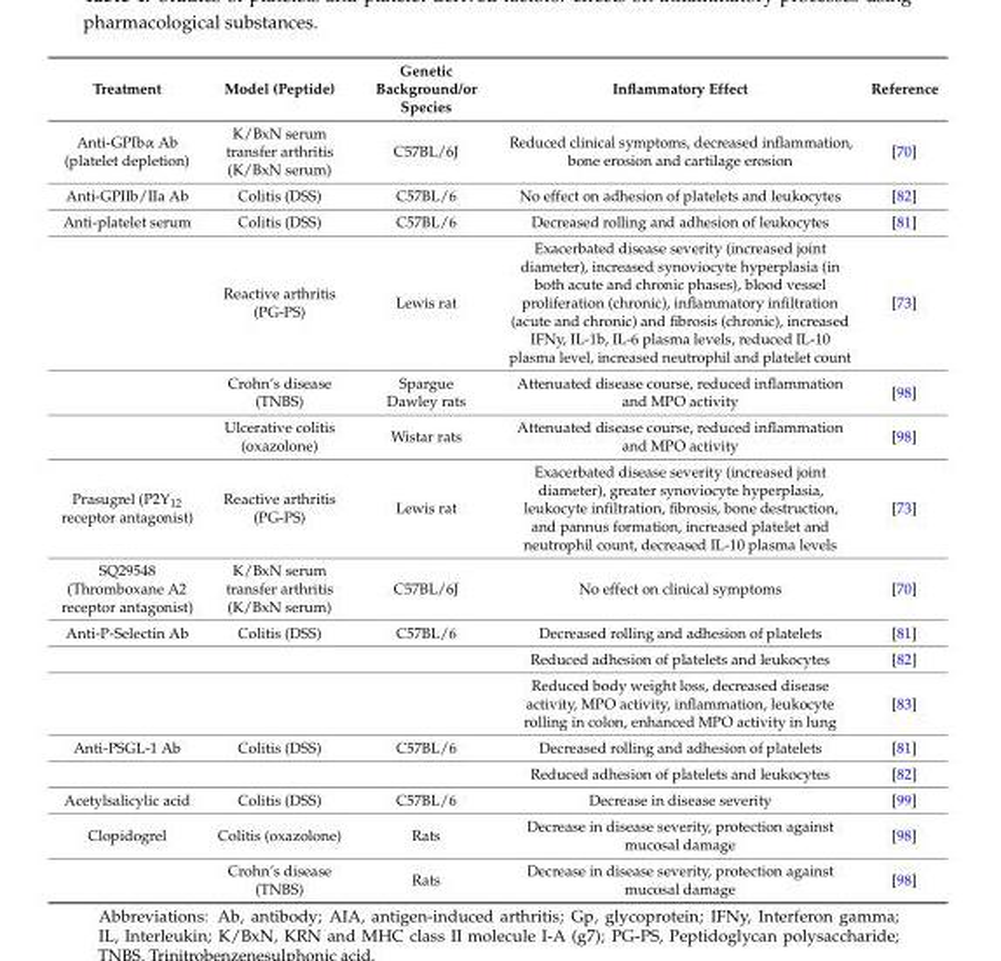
<table><thead><tr><td>Treatment</td><td>Model (Peptide)</td><td>Genetic Background/or Species</td><td>Inflammatory Effect</td><td>Reference</td></tr></thead><tbody><tr><td>Anti-GPIbα Ab (platelet depletion)</td><td>K/BxN serum transfer arthritis (K/BxN serum)</td><td>C57BL/6J</td><td>Reduced clinical symptoms, decreased inflammation, bone erosion and cartilage erosion</td><td>[70]</td></tr><tr><td>Anti-GPIIb/IIa Ab</td><td>Colitis (DSS)</td><td>C57BL/6</td><td>No effect on adhesion of platelets and leukocytes</td><td>[82]</td></tr><tr><td rowspan="4">Anti-platelet serum</td><td>Colitis (DSS)</td><td>C57BL/6</td><td>Decreased rolling and adhesion of leukocytes</td><td>[81]</td></tr><tr><td>Reactive arthritis (PG-PS)</td><td>Lewis rat</td><td>Exacerbated disease severity (increased joint diameter), increased synoviocyte hyperplasia (in both acute and chronic phases), blood vessel proliferation (chronic), inflammatory infiltration (acute and chronic) and fibrosis (chronic), increased IFNy, IL-1b, IL-6 plasma levels, reduced IL-10 plasma level, increased neutrophil and platelet count</td><td>[73]</td></tr><tr><td>Crohn’s disease (TNBS)</td><td>Spargue Dawley rats</td><td>Attenuated disease course, reduced inflammation and MPO activity</td><td>[98]</td></tr><tr><td>Ulcerative colitis (oxazolone)</td><td>Wistar rats</td><td>Attenuated disease course, reduced inflammation and MPO activity</td><td>[98]</td></tr><tr><td>Prasugrel (P2Y<sub>12</sub> receptor antagonist)</td><td>Reactive arthritis (PG-PS)</td><td>Lewis rat</td><td>Exacerbated disease severity (increased joint diameter), greater synoviocyte hyperplasia, leukocyte infiltration, fibrosis, bone destruction, and pannus formation, increased platelet and neutrophil count, decreased IL-10 plasma levels</td><td>[73]</td></tr><tr><td>SQ29548 (Thromboxane A2 receptor antagonist)</td><td>K/BxN serum transfer arthritis (K/BxN serum)</td><td>C57BL/6J</td><td>No effect on clinical symptoms</td><td>[70]</td></tr><tr><td rowspan="3">Anti-P-Selectin Ab</td><td>Colitis (DSS)</td><td>C57BL/6</td><td>Decreased rolling and adhesion of platelets</td><td>[81]</td></tr><tr><td></td><td></td><td>Reduced adhesion of platelets and leukocytes</td><td>[82]</td></tr><tr><td></td><td></td><td>Reduced body weight loss, decreased disease activity, MPO activity, inflammation, leukocyte rolling in colon, enhanced MPO activity in lung</td><td>[83]</td></tr><tr><td rowspan="2">Anti-PSGL-1 Ab</td><td>Colitis (DSS)</td><td>C57BL/6</td><td>Decreased rolling and adhesion of platelets</td><td>[81]</td></tr><tr><td></td><td></td><td>Reduced adhesion of platelets and leukocytes</td><td>[82]</td></tr><tr><td>Acetylsalicylic acid</td><td>Colitis (DSS)</td><td>C57BL/6</td><td>Decrease in disease severity</td><td>[99]</td></tr><tr><td rowspan="2">Clopidogrel</td><td>Colitis (oxazolone)</td><td>Rats</td><td>Decrease in disease severity, protection against mucosal damage</td><td>[98]</td></tr><tr><td>Crohn’s disease (TNBS)</td><td>Rats</td><td>Decrease in disease severity, protection against mucosal damage</td><td>[98]</td></tr></tbody></table>